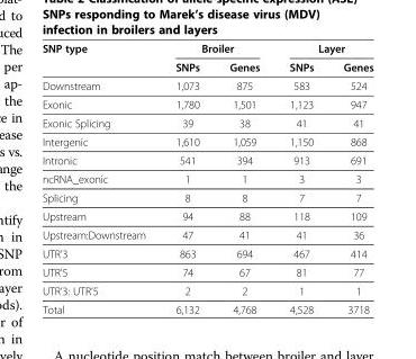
<table><thead><tr><td rowspan="2">SNP type</td><td colspan="2">Broiler</td><td colspan="2">Layer</td></tr><tr><td>SNPs</td><td>Genes</td><td>SNPs</td><td>Genes</td></tr></thead><tbody><tr><td>Downstream</td><td>1,073</td><td>875</td><td>583</td><td>524</td></tr><tr><td>Exonic</td><td>1,780</td><td>1,501</td><td>1,123</td><td>947</td></tr><tr><td>Exonic Splicing</td><td>39</td><td>38</td><td>41</td><td>41</td></tr><tr><td>Intergenic</td><td>1,610</td><td>1,059</td><td>1,150</td><td>868</td></tr><tr><td>Intronic</td><td>541</td><td>394</td><td>913</td><td>691</td></tr><tr><td>ncRNA_exonic</td><td>1</td><td>1</td><td>3</td><td>3</td></tr><tr><td>Splicing</td><td>8</td><td>8</td><td>7</td><td>7</td></tr><tr><td>Upstream</td><td>94</td><td>88</td><td>118</td><td>109</td></tr><tr><td>Upstream:Downstream</td><td>47</td><td>41</td><td>41</td><td>36</td></tr><tr><td>UTR’3</td><td>863</td><td>694</td><td>467</td><td>414</td></tr><tr><td>UTR’5</td><td>74</td><td>67</td><td>81</td><td>77</td></tr><tr><td>UTR’3: UTR’5</td><td>2</td><td>2</td><td>1</td><td>1</td></tr><tr><td>Total</td><td>6,132</td><td>4,768</td><td>4,528</td><td>3718</td></tr></tbody></table>